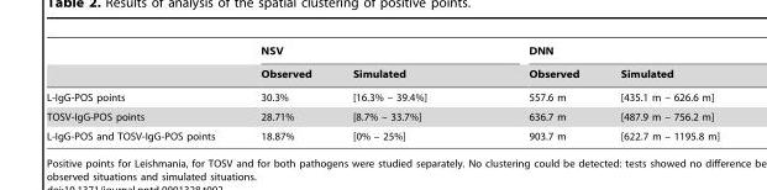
<table><thead><tr><td rowspan="2"></td><td colspan="2">NSV</td><td colspan="2">DNN</td></tr><tr><td>Observed</td><td>Simulated</td><td>Observed</td><td>Simulated</td></tr></thead><tbody><tr><td>L-IgG-POS points</td><td>30.3%</td><td>[16.3% – 39.4%]</td><td>557.6 m</td><td>[435.1 m – 626.6 m]</td></tr><tr><td>TOSV-IgG-POS points</td><td>28.71%</td><td>[8.7% – 33.7%]</td><td>636.7 m</td><td>[487.9 m – 756.2 m]</td></tr><tr><td>L-IgG-POS and TOSV-IgG-POS points</td><td>18.87%</td><td>[0% – 25%]</td><td>903.7 m</td><td>[622.7 m – 1195.8 m]</td></tr></tbody></table>